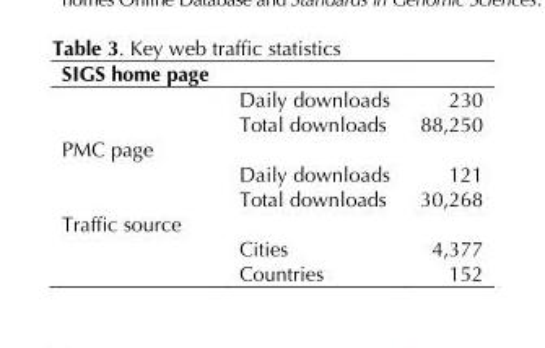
<table><thead><tr><td>SIGS home page</td><td></td><td></td></tr></thead><tbody><tr><td></td><td>Daily downloads</td><td>230</td></tr><tr><td></td><td>Total downloads</td><td>88,250</td></tr><tr><td colspan="3">PMC page</td></tr><tr><td></td><td>Daily downloads</td><td>121</td></tr><tr><td></td><td>Total downloads</td><td>30,268</td></tr><tr><td colspan="3">Traffic source</td></tr><tr><td></td><td>Cities</td><td>4,377</td></tr><tr><td></td><td>Countries</td><td>152</td></tr></tbody></table>